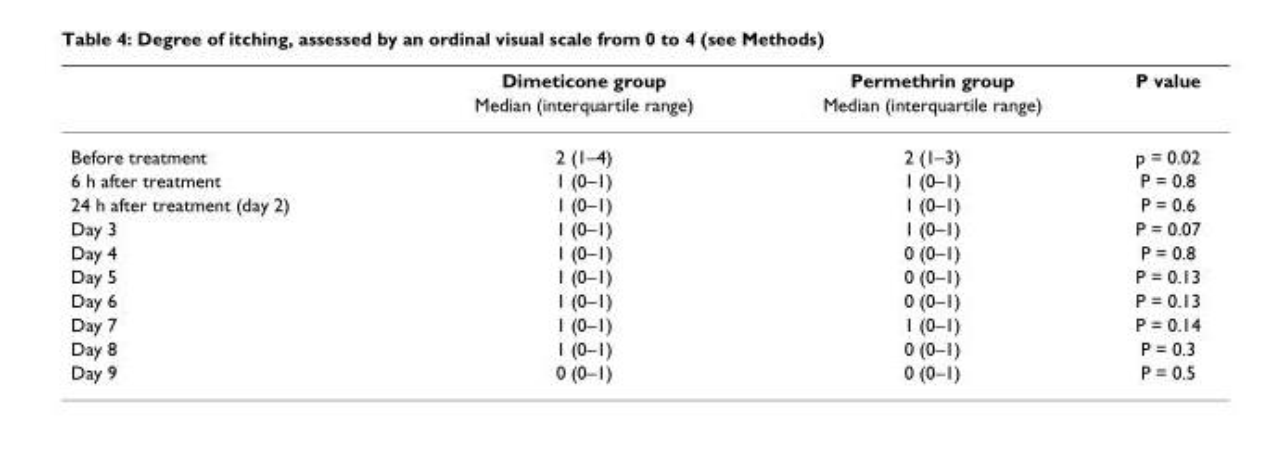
<table><thead><tr><td rowspan="2"></td><td rowspan="2">Dimeticone group Median (interquartile range)</td><td rowspan="2">Permethrin group Median (interquartile range)</td><td rowspan="2">P value</td></tr><tr></tr></thead><tbody><tr><td>Before treatment</td><td>2 (1–4)</td><td>2 (1–3)</td><td>p = 0.02</td></tr><tr><td>6 h after treatment</td><td>1 (0–1)</td><td>1 (0–1)</td><td>P = 0.8</td></tr><tr><td>24 h after treatment (day 2)</td><td>1 (0–1)</td><td>1 (0–1)</td><td>P = 0.6</td></tr><tr><td>Day 3</td><td>1 (0–1)</td><td>1 (0–1)</td><td>P = 0.07</td></tr><tr><td>Day 4</td><td>1 (0–1)</td><td>0 (0–1)</td><td>P = 0.8</td></tr><tr><td>Day 5</td><td>1 (0–1)</td><td>0 (0–1)</td><td>P = 0.13</td></tr><tr><td>Day 6</td><td>1 (0–1)</td><td>0 (0–1)</td><td>P = 0.13</td></tr><tr><td>Day 7</td><td>1 (0–1)</td><td>1 (0–1)</td><td>P = 0.14</td></tr><tr><td>Day 8</td><td>1 (0–1)</td><td>0 (0–1)</td><td>P = 0.3</td></tr><tr><td>Day 9</td><td>0 (0–1)</td><td>0 (0–1)</td><td>P = 0.5</td></tr></tbody></table>